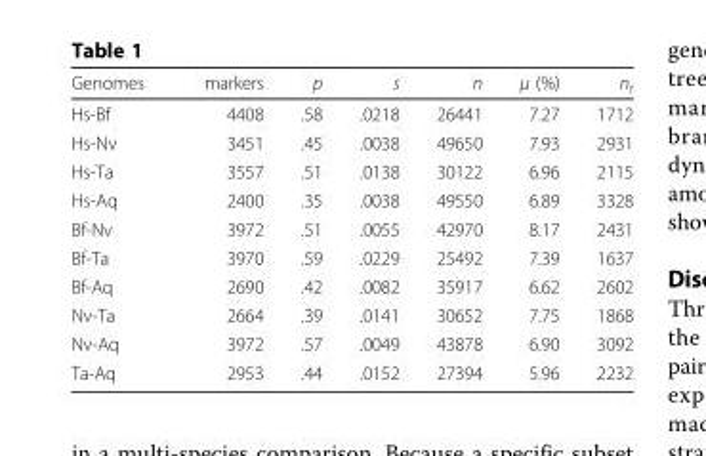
<table><thead><tr><td>Genomes</td><td>markers</td><td>p</td><td>s</td><td>n</td><td>µ (%)</td><td>n<sub>t</sub></td></tr></thead><tbody><tr><td>Hs-Bf</td><td>4408</td><td>.58</td><td>.0218</td><td>26441</td><td>7.27</td><td>1712</td></tr><tr><td>Hs-Nv</td><td>3451</td><td>.45</td><td>.0038</td><td>49650</td><td>7.93</td><td>2931</td></tr><tr><td>Hs-Ta</td><td>3557</td><td>.51</td><td>.0138</td><td>30122</td><td>6.96</td><td>2115</td></tr><tr><td>Hs-Aq</td><td>2400</td><td>.35</td><td>.0038</td><td>49550</td><td>6.89</td><td>3328</td></tr><tr><td>Bf-Nv</td><td>3972</td><td>.51</td><td>.0055</td><td>42970</td><td>8.17</td><td>2431</td></tr><tr><td>Bf-Ta</td><td>3970</td><td>.59</td><td>.0229</td><td>25492</td><td>7.39</td><td>1637</td></tr><tr><td>Bf-Aq</td><td>2690</td><td>.42</td><td>.0082</td><td>35917</td><td>6.62</td><td>2602</td></tr><tr><td>Nv-Ta</td><td>2664</td><td>.39</td><td>.0141</td><td>30652</td><td>7.75</td><td>1868</td></tr><tr><td>Nv-Aq</td><td>3972</td><td>.57</td><td>.0049</td><td>43878</td><td>6.90</td><td>3092</td></tr><tr><td>Ta-Aq</td><td>2953</td><td>.44</td><td>.0152</td><td>27394</td><td>5.96</td><td>2232</td></tr></tbody></table>